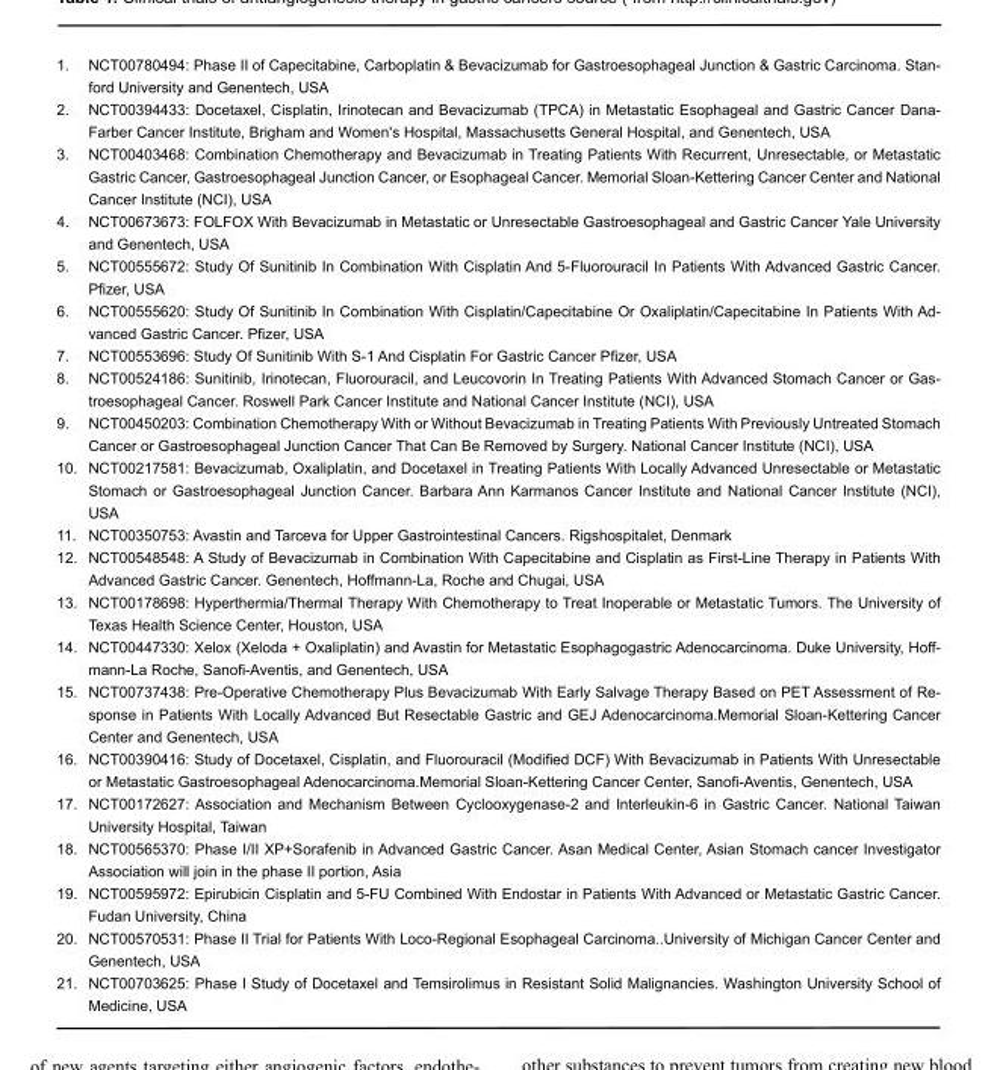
<table><tbody><tr><td>1.</td><td>NCT00780494: Phase II of Capecitabine, Carboplatin &amp; Bevacizumab for Gastroesophageal Junction &amp; Gastric Carcinoma. Stan- ford University and Genentech, USA</td></tr><tr><td>2.</td><td>NCT00394433: Docetaxel, Cisplatin, Irinotecan and Bevacizumab (TPCA) in Metastatic Esophageal and Gastric Cancer Dana- Farber Cancer Institute, Brigham and Women&#x27;s Hospital, Massachusetts General Hospital, and Genentech, USA</td></tr><tr><td>3.</td><td>NCT00403468: Combination Chemotherapy and Bevacizumab in Treating Patients With Recurrent, Unresectable, or Metastatic Gastric Cancer, Gastroesophageal Junction Cancer, or Esophageal Cancer. Memorial Sloan-Kettering Cancer Center and National Cancer Institute (NCI), USA</td></tr><tr><td>4.</td><td>NCT00673673: FOLFOX With Bevacizumab in Metastatic or Unresectable Gastroesophageal and Gastric Cancer Yale University and Genentech, USA</td></tr><tr><td>5.</td><td>NCT00555672: Study Of Sunitinib In Combination With Cisplatin And 5-Fluorouracil In Patients With Advanced Gastric Cancer. Pfizer, USA</td></tr><tr><td>6.</td><td>NCT00555620: Study Of Sunitinib In Combination With Cisplatin/Capecitabine Or Oxaliplatin/Capecitabine In Patients With Ad- vanced Gastric Cancer. Pfizer, USA</td></tr><tr><td>7.</td><td>NCT00553696: Study Of Sunitinib With S-1 And Cisplatin For Gastric Cancer Pfizer, USA</td></tr><tr><td>8.</td><td>NCT00524186: Sunitinib, Irinotecan, Fluorouracil, and Leucovorin In Treating Patients With Advanced Stomach Cancer or Gas- troesophageal Cancer. Roswell Park Cancer Institute and National Cancer Institute (NCI), USA</td></tr><tr><td>9.</td><td>NCT00450203: Combination Chemotherapy With or Without Bevacizumab in Treating Patients With Previously Untreated Stomach Cancer or Gastroesophageal Junction Cancer That Can Be Removed by Surgery. National Cancer Institute (NCI), USA</td></tr><tr><td>10.</td><td>NCT00217581: Bevacizumab, Oxaliplatin, and Docetaxel in Treating Patients With Locally Advanced Unresectable or Metastatic Stomach or Gastroesophageal Junction Cancer. Barbara Ann Karmanos Cancer Institute and National Cancer Institute (NCI), USA</td></tr><tr><td>11.</td><td>NCT00350753: Avastin and Tarceva for Upper Gastrointestinal Cancers. Rigshospitalet, Denmark</td></tr><tr><td>12.</td><td>NCT00548548: A Study of Bevacizumab in Combination With Capecitabine and Cisplatin as First-Line Therapy in Patients With Advanced Gastric Cancer. Genentech, Hoffmann-La, Roche and Chugai, USA</td></tr><tr><td>13.</td><td>NCT00178698: Hyperthermia/Thermal Therapy With Chemotherapy to Treat Inoperable or Metastatic Tumors. The University of Texas Health Science Center, Houston, USA</td></tr><tr><td>14.</td><td>NCT00447330: Xelox (Xeloda + Oxaliplatin) and Avastin for Metastatic Esophagogastric Adenocarcinoma. Duke University, Hoff- mann-La Roche, Sanofi-Aventis, and Genentech, USA</td></tr><tr><td>15.</td><td>NCT00737438: Pre-Operative Chemotherapy Plus Bevacizumab With Early Salvage Therapy Based on PET Assessment of Re- sponse in Patients With Locally Advanced But Resectable Gastric and GEJ Adenocarcinoma.Memorial Sloan-Kettering Cancer Center and Genentech, USA</td></tr><tr><td>16.</td><td>NCT00390416: Study of Docetaxel, Cisplatin, and Fluorouracil (Modified DCF) With Bevacizumab in Patients With Unresectable or Metastatic Gastroesophageal Adenocarcinoma.Memorial Sloan-Kettering Cancer Center, Sanofi-Aventis, Genentech, USA</td></tr><tr><td>17.</td><td>NCT00172627: Association and Mechanism Between Cyclooxygenase-2 and Interleukin-6 in Gastric Cancer. National Taiwan University Hospital, Taiwan</td></tr><tr><td>18.</td><td>NCT00565370: Phase I/II XP+Sorafenib in Advanced Gastric Cancer. Asan Medical Center, Asian Stomach cancer Investigator Association will join in the phase II portion, Asia</td></tr><tr><td>19.</td><td>NCT00595972: Epirubicin Cisplatin and 5-FU Combined With Endostar in Patients With Advanced or Metastatic Gastric Cancer. Fudan University, China</td></tr><tr><td>20.</td><td>NCT00570531: Phase II Trial for Patients With Loco-Regional Esophageal Carcinoma..University of Michigan Cancer Center and Genentech, USA</td></tr><tr><td>21.</td><td>NCT00703625: Phase I Study of Docetaxel and Temsirolimus in Resistant Solid Malignancies. Washington University School of Medicine, USA</td></tr></tbody></table>